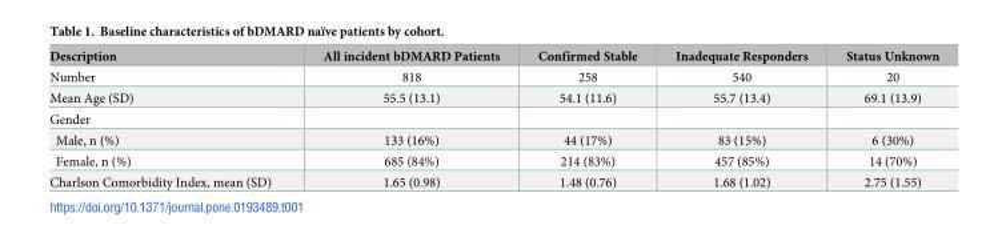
<table><thead><tr><td>Description</td><td>All incident bDMARD Patients</td><td>Confirmed Stable</td><td>Inadequate Responders</td><td>Status Unknown</td></tr></thead><tbody><tr><td>Number</td><td>818</td><td>258</td><td>540</td><td>20</td></tr><tr><td>Mean Age (SD)</td><td>55.5 (13.1)</td><td>54.1 (11.6)</td><td>55.7 (13.4)</td><td>69.1 (13.9)</td></tr><tr><td colspan="5">Gender</td></tr><tr><td>Male, n (%)</td><td>133 (16%)</td><td>44 (17%)</td><td>83 (15%)</td><td>6 (30%)</td></tr><tr><td>Female, n (%)</td><td>685 (84%)</td><td>214 (83%)</td><td>457 (85%)</td><td>14 (70%)</td></tr><tr><td>Charlson Comorbidity Index, mean (SD)</td><td>1.65 (0.98)</td><td>1.48 (0.76)</td><td>1.68 (1.02)</td><td>2.75 (1.55)</td></tr></tbody></table>